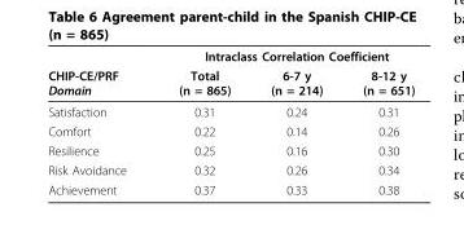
<table><thead><tr><td rowspan="2">CHIP-CE/PRF Domain</td><td colspan="3">Intraclass Correlation Coefficient</td></tr><tr><td>Total (n = 865)</td><td>6-7 y (n = 214)</td><td>8-12 y (n = 651)</td></tr></thead><tbody><tr><td>Satisfaction</td><td>0.31</td><td>0.24</td><td>0.31</td></tr><tr><td>Comfort</td><td>0.22</td><td>0.14</td><td>0.26</td></tr><tr><td>Resilience</td><td>0.25</td><td>0.16</td><td>0.30</td></tr><tr><td>Risk Avoidance</td><td>0.32</td><td>0.26</td><td>0.34</td></tr><tr><td>Achievement</td><td>0.37</td><td>0.33</td><td>0.38</td></tr></tbody></table>